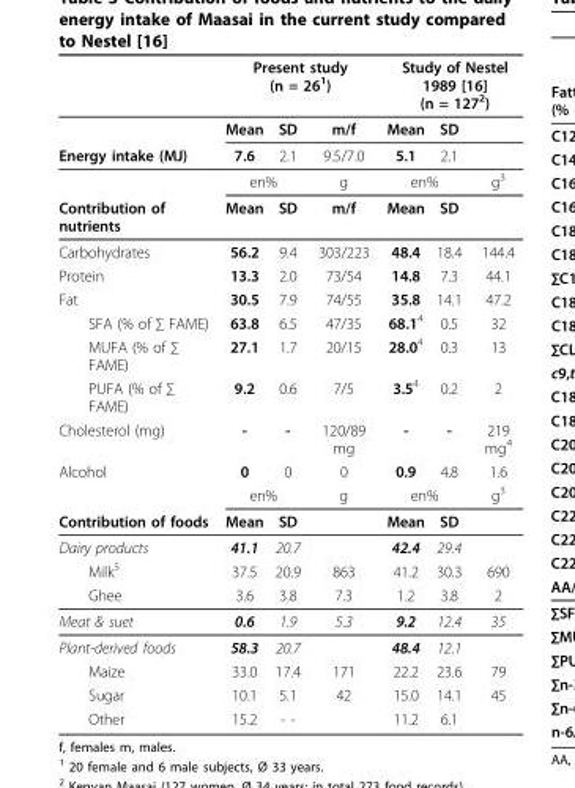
<table><thead><tr><td rowspan="2"></td><td colspan="3">Present study (n = 26<sup>1</sup>)</td><td colspan="3">Study of Nestel 1989 [16] (n = 127<sup>2</sup>)</td></tr><tr><td>Mean</td><td>SD</td><td>m/f</td><td>Mean</td><td>SD</td><td></td></tr></thead><tbody><tr><td rowspan="2">Energy intake (MJ)</td><td>7.6</td><td>2.1</td><td>9.5/7.0</td><td>5.1</td><td>2.1</td><td></td></tr><tr><td colspan="2">en%</td><td>g</td><td colspan="2">en%</td><td>g<sup>3</sup></td></tr><tr><td>Contribution of nutrients</td><td>Mean</td><td>SD</td><td>m/f</td><td>Mean</td><td>SD</td><td></td></tr><tr><td>Carbohydrates</td><td>56.2</td><td>9.4</td><td>303/223</td><td>48.4</td><td>18.4</td><td>144.4</td></tr><tr><td>Protein</td><td>13.3</td><td>2.0</td><td>73/54</td><td>14.8</td><td>7.3</td><td>44.1</td></tr><tr><td>Fat</td><td>30.5</td><td>7.9</td><td>74/55</td><td>35.8</td><td>14.1</td><td>47.2</td></tr><tr><td>SFA (% of ∑ FAME)</td><td>63.8</td><td>6.5</td><td>47/35</td><td>68.1<sup>4</sup></td><td>0.5</td><td>32</td></tr><tr><td>MUFA (% of ∑ FAME)</td><td>27.1</td><td>1.7</td><td>20/15</td><td>28.0<sup>4</sup></td><td>0.3</td><td>13</td></tr><tr><td>PUFA (% of ∑ FAME)</td><td>9.2</td><td>0.6</td><td>7/5</td><td>3.5<sup>4</sup></td><td>0.2</td><td>2</td></tr><tr><td>Cholesterol (mg)</td><td>-</td><td>-</td><td>120/89 mg</td><td>-</td><td>-</td><td>219 mg<sup>4</sup></td></tr><tr><td rowspan="2">Alcohol</td><td>0</td><td>0</td><td>0</td><td>0.9</td><td>4.8</td><td>1.6</td></tr><tr><td colspan="2">en%</td><td>g</td><td colspan="2">en%</td><td>g<sup>3</sup></td></tr><tr><td>Contribution of foods</td><td>Mean</td><td>SD</td><td></td><td>Mean</td><td>SD</td><td></td></tr><tr><td>Dairy products</td><td>41.1</td><td>20.7</td><td></td><td>42.4</td><td>29.4</td><td></td></tr><tr><td>Milk<sup>5</sup></td><td>37.5</td><td>20.9</td><td>863</td><td>41.2</td><td>30.3</td><td>690</td></tr><tr><td>Ghee</td><td>3.6</td><td>3.8</td><td>7.3</td><td>1.2</td><td>3.8</td><td>2</td></tr><tr><td>Meat &amp; suet</td><td>0.6</td><td>1.9</td><td>5.3</td><td>9.2</td><td>12.4</td><td>35</td></tr><tr><td>Plant-derived foods</td><td>58.3</td><td>20.7</td><td></td><td>48.4</td><td>12.1</td><td></td></tr><tr><td>Maize</td><td>33.0</td><td>17.4</td><td>171</td><td>22.2</td><td>23.6</td><td>79</td></tr><tr><td>Sugar</td><td>10.1</td><td>5.1</td><td>42</td><td>15.0</td><td>14.1</td><td>45</td></tr><tr><td>Other</td><td>15.2</td><td>- -</td><td></td><td>11.2</td><td>6.1</td><td></td></tr></tbody></table>